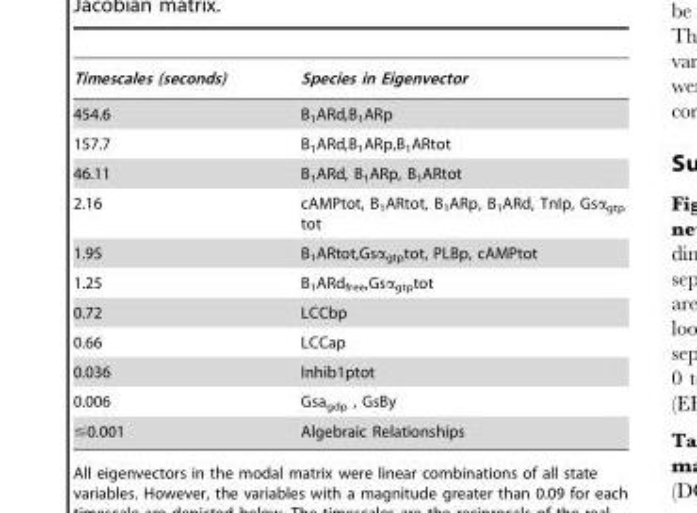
<table><thead><tr><td>Timescales (seconds)</td><td>Species in Eigenvector</td></tr></thead><tbody><tr><td>454.6</td><td>B<sub>1</sub>ARd,B<sub>1</sub>ARp</td></tr><tr><td>157.7</td><td>B<sub>1</sub>ARd,B<sub>1</sub>ARp,B<sub>1</sub>ARtot</td></tr><tr><td>46.11</td><td>B<sub>1</sub>ARd, B<sub>1</sub>ARp, B<sub>1</sub>ARtot</td></tr><tr><td>2.16</td><td>cAMPtot, B<sub>1</sub>ARtot, B<sub>1</sub>ARp, B<sub>1</sub>ARd, TnIp, Gsα<sub>gtp</sub> tot</td></tr><tr><td>1.95</td><td>B<sub>1</sub>ARtot,Gsα<sub>gtp</sub>tot, PLBp, cAMPtot</td></tr><tr><td>1.25</td><td>B<sub>1</sub>ARd<sub>free</sub>,Gsα<sub>gtp</sub>tot</td></tr><tr><td>0.72</td><td>LCCbp</td></tr><tr><td>0.66</td><td>LCCap</td></tr><tr><td>0.036</td><td>Inhib1ptot</td></tr><tr><td>0.006</td><td>Gsa<sub>gdp</sub> , GsBy</td></tr><tr><td>≤0.001</td><td>Algebraic Relationships</td></tr></tbody></table>